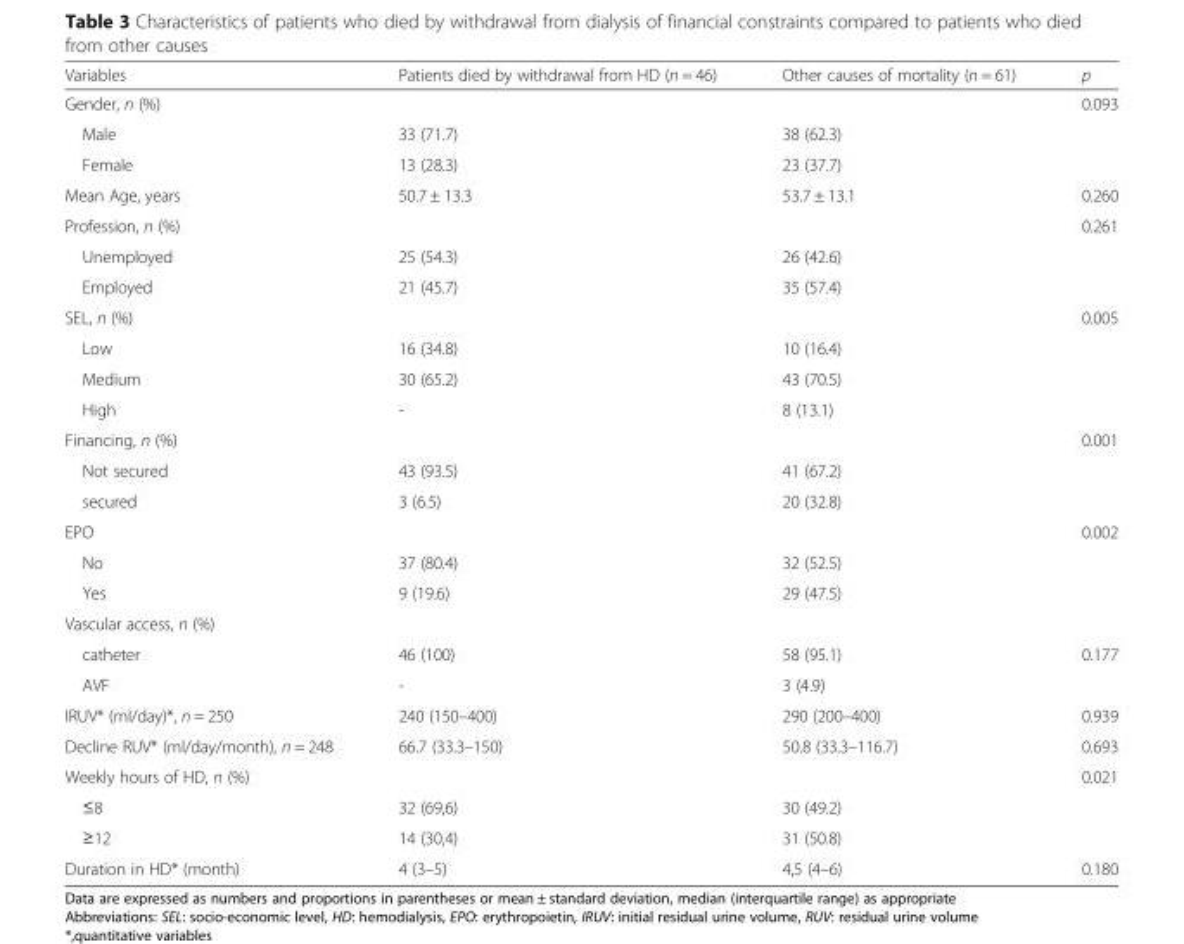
<table><thead><tr><td>Variables</td><td>Patients died by withdrawal from HD (n = 46)</td><td>Other causes of mortality (n = 61)</td><td>p</td></tr></thead><tbody><tr><td colspan="3">Gender, n (%)</td><td rowspan="3">0.093</td></tr><tr><td>Male</td><td>33 (71.7)</td><td>38 (62.3)</td></tr><tr><td>Female</td><td>13 (28.3)</td><td>23 (37.7)</td></tr><tr><td>Mean Age, years</td><td>50.7 ± 13.3</td><td>53.7 ± 13.1</td><td>0.260</td></tr><tr><td colspan="3">Profession, n (%)</td><td rowspan="3">0.261</td></tr><tr><td>Unemployed</td><td>25 (54.3)</td><td>26 (42.6)</td></tr><tr><td>Employed</td><td>21 (45.7)</td><td>35 (57.4)</td></tr><tr><td colspan="3">SEL, n (%)</td><td rowspan="4">0.005</td></tr><tr><td>Low</td><td>16 (34.8)</td><td>10 (16.4)</td></tr><tr><td>Medium</td><td>30 (65.2)</td><td>43 (70.5)</td></tr><tr><td>High</td><td>-</td><td>8 (13.1)</td></tr><tr><td colspan="3">Financing, n (%)</td><td rowspan="3">0.001</td></tr><tr><td>Not secured</td><td>43 (93.5)</td><td>41 (67.2)</td></tr><tr><td>secured</td><td>3 (6.5)</td><td>20 (32.8)</td></tr><tr><td colspan="3">EPO</td><td rowspan="3">0.002</td></tr><tr><td>No</td><td>37 (80.4)</td><td>32 (52.5)</td></tr><tr><td>Yes</td><td>9 (19.6)</td><td>29 (47.5)</td></tr><tr><td colspan="4">Vascular access, n (%)</td></tr><tr><td>catheter</td><td>46 (100)</td><td>58 (95.1)</td><td>0.177</td></tr><tr><td>AVF</td><td>-</td><td>3 (4.9)</td><td></td></tr><tr><td>IRUV* (ml/day)*, n = 250</td><td>240 (150–400)</td><td>290 (200–400)</td><td>0.939</td></tr><tr><td>Decline RUV* (ml/day/month), n = 248</td><td>66.7 (33.3–150)</td><td>50.8 (33.3–116.7)</td><td>0.693</td></tr><tr><td colspan="3">Weekly hours of HD, n (%)</td><td rowspan="3">0.021</td></tr><tr><td>≤8</td><td>32 (69,6)</td><td>30 (49.2)</td></tr><tr><td>≥12</td><td>14 (30,4)</td><td>31 (50.8)</td></tr><tr><td>Duration in HD* (month)</td><td>4 (3–5)</td><td>4,5 (4–6)</td><td>0.180</td></tr></tbody></table>